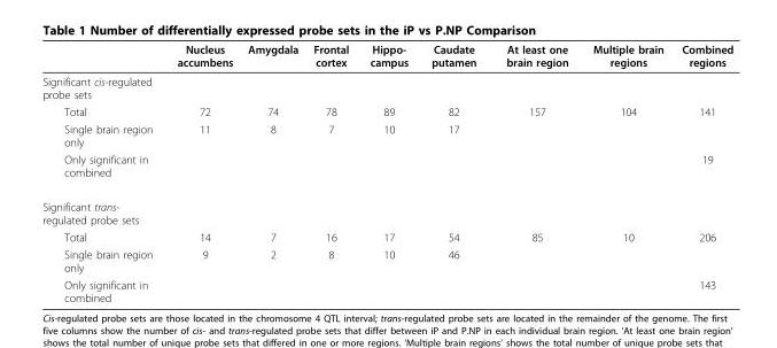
<table><thead><tr><td></td><td>Nucleus accumbens</td><td>Amygdala</td><td>Frontal cortex</td><td>Hippo- campus</td><td>Caudate putamen</td><td>At least one brain region</td><td>Multiple brain regions</td><td>Combined regions</td></tr></thead><tbody><tr><td colspan="9">Significant cis-regulated probe sets</td></tr><tr><td>Total</td><td>72</td><td>74</td><td>78</td><td>89</td><td>82</td><td>157</td><td>104</td><td>141</td></tr><tr><td>Single brain region only</td><td>11</td><td>8</td><td>7</td><td>10</td><td>17</td><td></td><td></td><td></td></tr><tr><td>Only significant in combined</td><td></td><td></td><td></td><td></td><td></td><td></td><td></td><td>19</td></tr><tr><td colspan="9">Significant trans- regulated probe sets</td></tr><tr><td>Total</td><td>14</td><td>7</td><td>16</td><td>17</td><td>54</td><td>85</td><td>10</td><td>206</td></tr><tr><td>Single brain region only</td><td>9</td><td>2</td><td>8</td><td>10</td><td>46</td><td></td><td></td><td></td></tr><tr><td>Only significant in combined</td><td></td><td></td><td></td><td></td><td></td><td></td><td></td><td>143</td></tr></tbody></table>